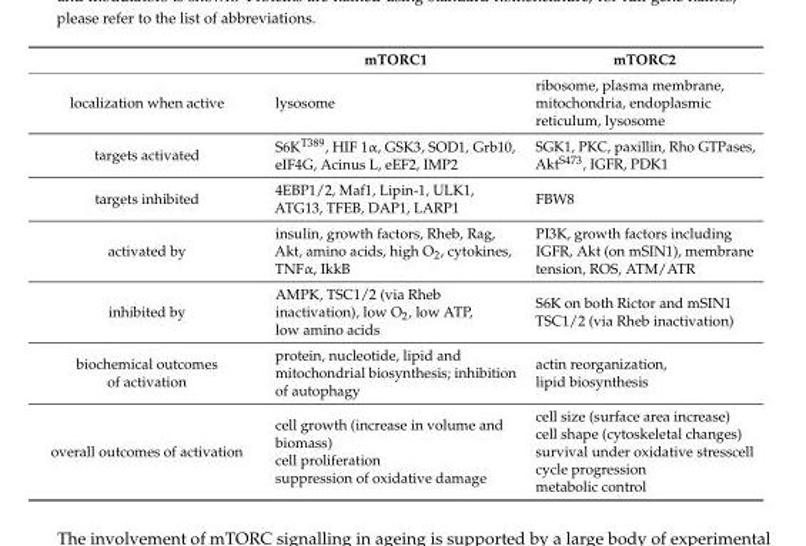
<table><thead><tr><td></td><td>mTORC1</td><td>mTORC2</td></tr></thead><tbody><tr><td>localization when active</td><td>lysosome</td><td>ribosome, plasma membrane, mitochondria, endoplasmic reticulum, lysosome</td></tr><tr><td>targets activated</td><td>S6K<sup>T389</sup>, HIF 1α, GSK3, SOD1, Grb10, eIF4G, Acinus L, eEF2, IMP2</td><td>SGK1, PKC, paxillin, Rho GTPases, Akt<sup>S473</sup>, IGFR, PDK1</td></tr><tr><td>targets inhibited</td><td>4EBP1/2, Maf1, Lipin-1, ULK1, ATG13, TFEB, DAP1, LARP1</td><td>FBW8</td></tr><tr><td>activated by</td><td>insulin, growth factors, Rheb, Rag, Akt, amino acids, high O<sub>2</sub>, cytokines, TNFα, IkkB</td><td>PI3K, growth factors including IGFR, Akt (on mSIN1), membrane tension, ROS, ATM/ATR</td></tr><tr><td>inhibited by</td><td>AMPK, TSC1/2 (via Rheb inactivation), low O<sub>2</sub>, low ATP, low amino acids</td><td>S6K on both Rictor and mSIN1 TSC1/2 (via Rheb inactivation)</td></tr><tr><td>biochemical outcomes of activation</td><td>protein, nucleotide, lipid and mitochondrial biosynthesis; inhibition of autophagy</td><td>actin reorganization, lipid biosynthesis</td></tr><tr><td>overall outcomes of activation</td><td>cell growth (increase in volume and biomass) cell proliferation suppression of oxidative damage</td><td>cell size (surface area increase) cell shape (cytoskeletal changes) survival under oxidative stresscell cycle progression metabolic control</td></tr></tbody></table>